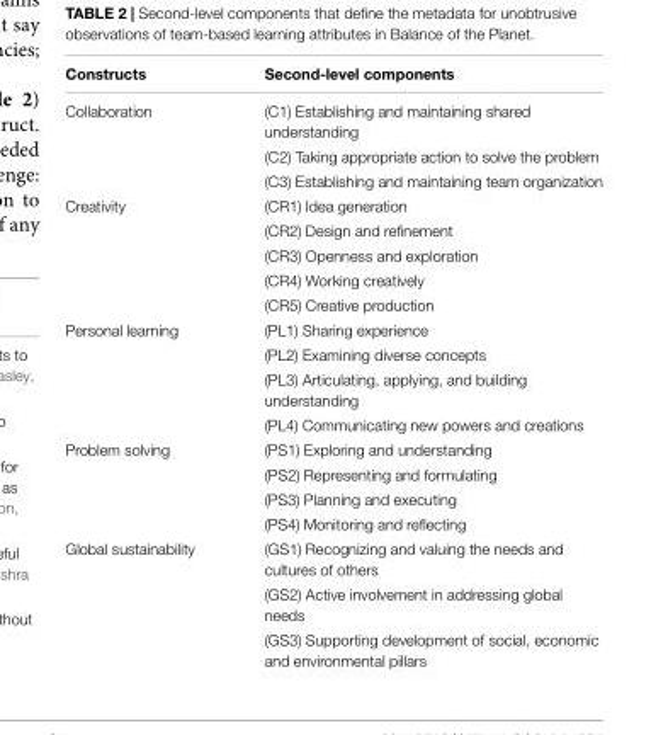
<table><thead><tr><td>Constructs</td><td>Second-level components</td></tr></thead><tbody><tr><td rowspan="3">Collaboration</td><td>(C1) Establishing and maintaining shared understanding</td></tr><tr><td>(C2) Taking appropriate action to solve the problem</td></tr><tr><td>(C3) Establishing and maintaining team organization</td></tr><tr><td rowspan="5">Creativity</td><td>(CR1) Idea generation</td></tr><tr><td>(CR2) Design and refinement</td></tr><tr><td>(CR3) Openness and exploration</td></tr><tr><td>(CR4) Working creatively</td></tr><tr><td>(CR5) Creative production</td></tr><tr><td rowspan="4">Personal learning</td><td>(PL1) Sharing experience</td></tr><tr><td>(PL2) Examining diverse concepts</td></tr><tr><td>(PL3) Articulating, applying, and building understanding</td></tr><tr><td>(PL4) Communicating new powers and creations</td></tr><tr><td rowspan="4">Problem solving</td><td>(PS1) Exploring and understanding</td></tr><tr><td>(PS2) Representing and formulating</td></tr><tr><td>(PS3) Planning and executing</td></tr><tr><td>(PS4) Monitoring and reflecting</td></tr><tr><td rowspan="3">Global sustainability</td><td>(GS1) Recognizing and valuing the needs and cultures of others</td></tr><tr><td>(GS2) Active involvement in addressing global needs</td></tr><tr><td>(GS3) Supporting development of social, economic and environmental pillars</td></tr></tbody></table>